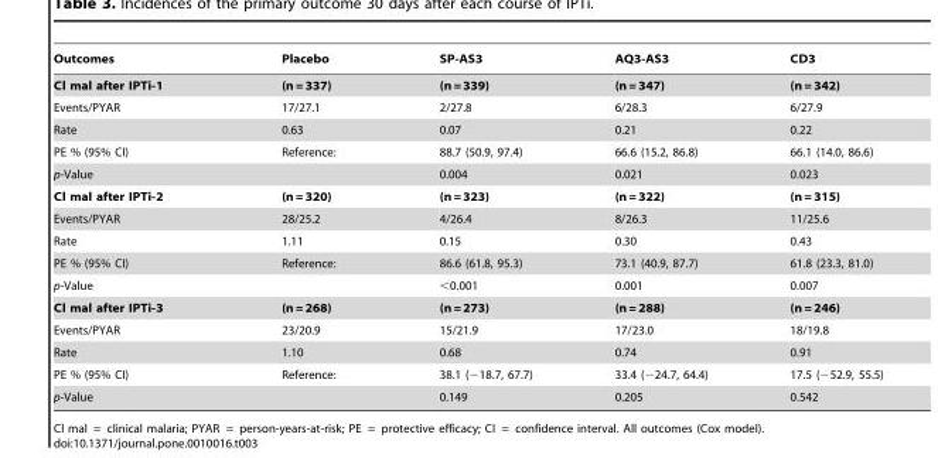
<table><thead><tr><td>Outcomes</td><td>Placebo</td><td>SP-AS3</td><td>AQ3-AS3</td><td>CD3</td></tr></thead><tbody><tr><td>Cl mal after IPTi-1</td><td>(n = 337)</td><td>(n = 339)</td><td>(n = 347)</td><td>(n = 342)</td></tr><tr><td>Events/PYAR</td><td>17/27.1</td><td>2/27.8</td><td>6/28.3</td><td>6/27.9</td></tr><tr><td>Rate</td><td>0.63</td><td>0.07</td><td>0.21</td><td>0.22</td></tr><tr><td>PE % (95% CI)</td><td>Reference:</td><td>88.7 (50.9, 97.4)</td><td>66.6 (15.2, 86.8)</td><td>66.1 (14.0, 86.6)</td></tr><tr><td>p-Value</td><td></td><td>0.004</td><td>0.021</td><td>0.023</td></tr><tr><td>Cl mal after IPTi-2</td><td>(n = 320)</td><td>(n = 323)</td><td>(n = 322)</td><td>(n = 315)</td></tr><tr><td>Events/PYAR</td><td>28/25.2</td><td>4/26.4</td><td>8/26.3</td><td>11/25.6</td></tr><tr><td>Rate</td><td>1.11</td><td>0.15</td><td>0.30</td><td>0.43</td></tr><tr><td>PE % (95% CI)</td><td>Reference:</td><td>86.6 (61.8, 95.3)</td><td>73.1 (40.9, 87.7)</td><td>61.8 (23.3, 81.0)</td></tr><tr><td>p-Value</td><td></td><td>&lt;0.001</td><td>0.001</td><td>0.007</td></tr><tr><td>Cl mal after IPTi-3</td><td>(n = 268)</td><td>(n = 273)</td><td>(n = 288)</td><td>(n = 246)</td></tr><tr><td>Events/PYAR</td><td>23/20.9</td><td>15/21.9</td><td>17/23.0</td><td>18/19.8</td></tr><tr><td>Rate</td><td>1.10</td><td>0.68</td><td>0.74</td><td>0.91</td></tr><tr><td>PE % (95% CI)</td><td>Reference:</td><td>38.1 (−18.7, 67.7)</td><td>33.4 (−24.7, 64.4)</td><td>17.5 (−52.9, 55.5)</td></tr><tr><td>p-Value</td><td></td><td>0.149</td><td>0.205</td><td>0.542</td></tr></tbody></table>